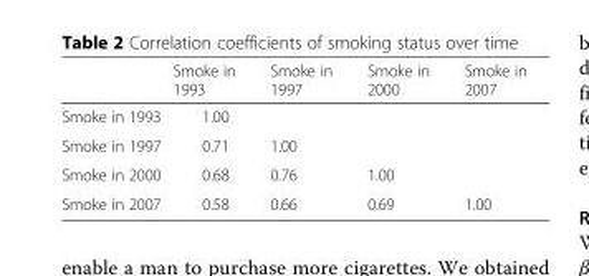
<table><thead><tr><td></td><td>Smoke in 1993</td><td>Smoke in 1997</td><td>Smoke in 2000</td><td>Smoke in 2007</td></tr></thead><tbody><tr><td>Smoke in 1993</td><td>1.00</td><td></td><td></td><td></td></tr><tr><td>Smoke in 1997</td><td>0.71</td><td>1.00</td><td></td><td></td></tr><tr><td>Smoke in 2000</td><td>0.68</td><td>0.76</td><td>1.00</td><td></td></tr><tr><td>Smoke in 2007</td><td>0.58</td><td>0.66</td><td>0.69</td><td>1.00</td></tr></tbody></table>